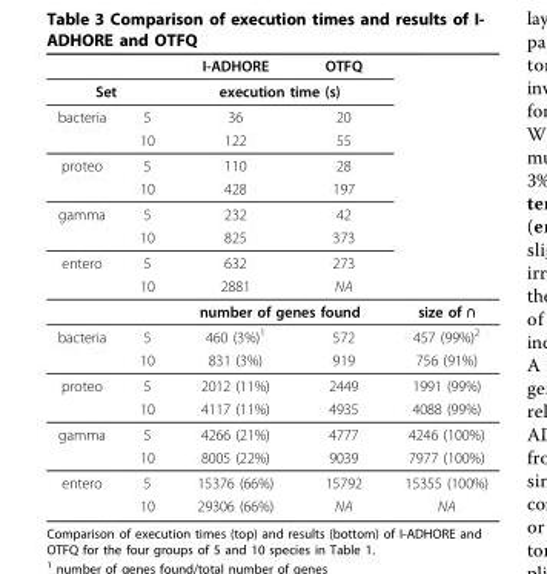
<table><thead><tr><td></td><td></td><td>I-ADHORE</td><td>OTFQ</td><td rowspan="10"></td></tr><tr><td colspan="2">Set</td><td colspan="2">execution time (s)</td></tr><tr><td rowspan="8">bacteria proteo gamma entero</td><td rowspan="8">5 10 5 10 5 10 5 10</td><td rowspan="8">36 122 110 428 232 825 632 2881</td><td rowspan="8">20 55 28 197 42 373 273 NA</td></tr><tr></tr><tr></tr><tr></tr><tr></tr><tr></tr><tr></tr><tr></tr></thead><tbody><tr><td></td><td></td><td colspan="2">number of genes found</td><td>size of ∩</td></tr><tr><td rowspan="2">bacteria</td><td>5</td><td>460 (3%)1</td><td>572</td><td>457 (99%)2</td></tr><tr><td>10</td><td>831 (3%)</td><td>919</td><td>756 (91%)</td></tr><tr><td rowspan="2">proteo</td><td>5</td><td>2012 (11%)</td><td>2449</td><td>1991 (99%)</td></tr><tr><td>10</td><td>4117 (11%)</td><td>4935</td><td>4088 (99%)</td></tr><tr><td rowspan="2">gamma</td><td>5</td><td>4266 (21%)</td><td>4777</td><td>4246 (100%)</td></tr><tr><td>10</td><td>8005 (22%)</td><td>9039</td><td>7977 (100%)</td></tr><tr><td rowspan="2">entero</td><td>5</td><td>15376 (66%)</td><td>15792</td><td>15355 (100%)</td></tr><tr><td>10</td><td>29306 (66%)</td><td>NA</td><td>NA</td></tr></tbody></table>